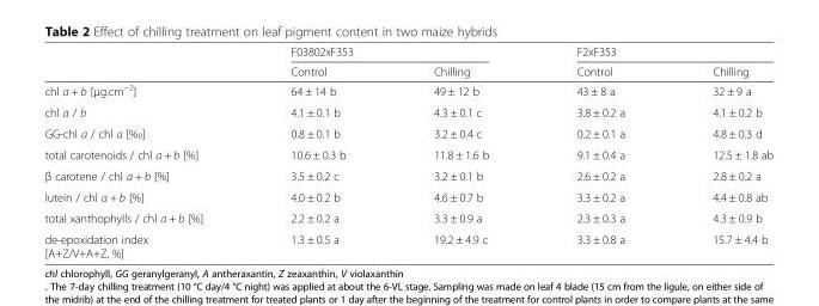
<table><thead><tr><td rowspan="2"></td><td colspan="2">F03802xF353</td><td colspan="2">F2xF353</td></tr><tr><td>Control</td><td>Chilling</td><td>Control</td><td>Chilling</td></tr></thead><tbody><tr><td>chl a + b [μg.cm<sup>−2</sup>]</td><td>64 ± 14 b</td><td>49 ± 12 b</td><td>43 ± 8 a</td><td>32 ± 9 a</td></tr><tr><td>chl a / b</td><td>4.1 ± 0.1 b</td><td>4.3 ± 0.1 c</td><td>3.8 ± 0.2 a</td><td>4.1 ± 0.2 b</td></tr><tr><td>GG-chl a / chl a [‰]</td><td>0.8 ± 0.1 b</td><td>3.2 ± 0.4 c</td><td>0.2 ± 0.1 a</td><td>4.8 ± 0.3 d</td></tr><tr><td>total carotenoids / chl a + b [%]</td><td>10.6 ± 0.3 b</td><td>11.8 ± 1.6 b</td><td>9.1 ± 0.4 a</td><td>12.5 ± 1.8 ab</td></tr><tr><td>β carotene / chl a + b [%]</td><td>3.5 ± 0.2 c</td><td>3.2 ± 0.1 b</td><td>2.6 ± 0.2 a</td><td>2.8 ± 0.2 a</td></tr><tr><td>lutein / chl a + b [%]</td><td>4.0 ± 0.2 b</td><td>4.6 ± 0.7 b</td><td>3.3 ± 0.2 a</td><td>4.4 ± 0.8 ab</td></tr><tr><td>total xanthophylls / chl a + b [%]</td><td>2.2 ± 0.2 a</td><td>3.3 ± 0.9 a</td><td>2.3 ± 0.3 a</td><td>4.3 ± 0.9 b</td></tr><tr><td>de-epoxidation index [A+Z/V+A+Z, %]</td><td>1.3 ± 0.5 a</td><td>19.2 ± 4.9 c</td><td>3.3 ± 0.8 a</td><td>15.7 ± 4.4 b</td></tr></tbody></table>